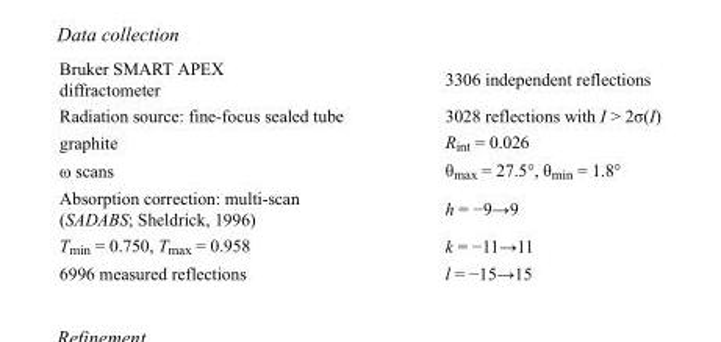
<table><tbody><tr><td>Bruker SMART APEX diffractometer</td><td>3306 independent reflections</td></tr><tr><td>Radiation source: fine-focus sealed tube</td><td>3028 reflections with I &gt; 2σ(I)</td></tr><tr><td>graphite</td><td>R<sub>int</sub> = 0.026</td></tr><tr><td>ω scans</td><td>θ<sub>max</sub> = 27.5°, θ<sub>min</sub> = 1.8°</td></tr><tr><td>Absorption correction: multi-scan (SADABS; Sheldrick, 1996)</td><td>h = −9→9</td></tr><tr><td>T<sub>min</sub> = 0.750, T<sub>max</sub> = 0.958</td><td>k = −11→11</td></tr><tr><td>6996 measured reflections</td><td>l = −15→15</td></tr></tbody></table>